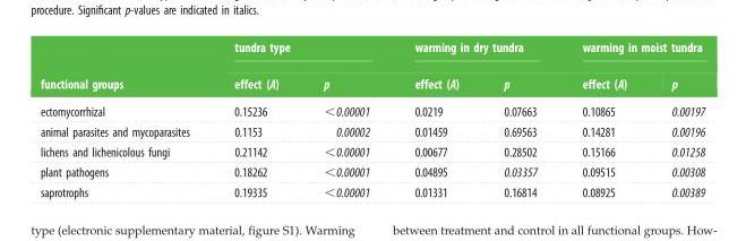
<table><thead><tr><td rowspan="2">functional groups</td><td colspan="2">tundra type</td><td colspan="2">warming in dry tundra</td><td colspan="2">warming in moist tundra</td></tr><tr><td>effect (A)</td><td>p</td><td>effect (A)</td><td>p</td><td>effect (A)</td><td>p</td></tr></thead><tbody><tr><td>ectomycorrhizal</td><td>0.15236</td><td>&lt;0.00001</td><td>0.0219</td><td>0.07663</td><td>0.10865</td><td>0.00197</td></tr><tr><td>animal parasites and mycoparasites</td><td>0.1153</td><td>0.00002</td><td>0.01459</td><td>0.69563</td><td>0.14281</td><td>0.00196</td></tr><tr><td>lichens and lichenicolous fungi</td><td>0.21142</td><td>&lt;0.00001</td><td>0.00677</td><td>0.28502</td><td>0.15166</td><td>0.01258</td></tr><tr><td>plant pathogens</td><td>0.18262</td><td>&lt;0.00001</td><td>0.04895</td><td>0.03357</td><td>0.09515</td><td>0.00308</td></tr><tr><td>saprotrophs</td><td>0.19335</td><td>&lt;0.00001</td><td>0.01331</td><td>0.16814</td><td>0.08925</td><td>0.00389</td></tr></tbody></table>